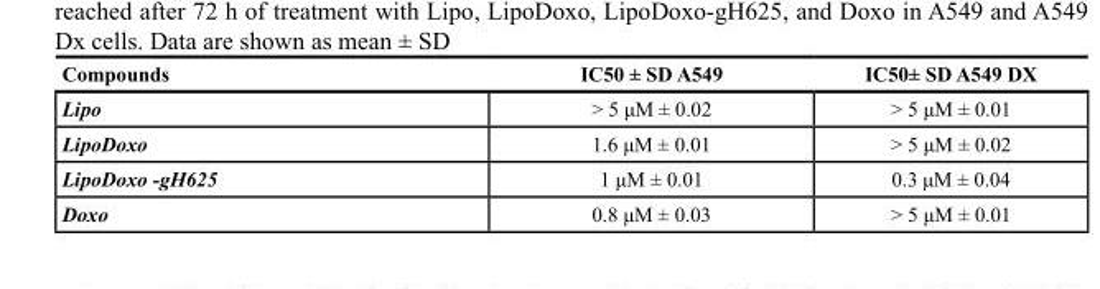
<table><thead><tr><td>Compounds</td><td>IC50 ± SD A549</td><td>IC50± SD A549 DX</td></tr></thead><tbody><tr><td>Lipo</td><td>&gt; 5 μM ± 0.02</td><td>&gt; 5 μM ± 0.01</td></tr><tr><td>LipoDoxo</td><td>1.6 μM ± 0.01</td><td>&gt; 5 μM ± 0.02</td></tr><tr><td>LipoDoxo -gH625</td><td>1 μM ± 0.01</td><td>0.3 μM ± 0.04</td></tr><tr><td>Doxo</td><td>0.8 μM ± 0.03</td><td>&gt; 5 μM ± 0.01</td></tr></tbody></table>